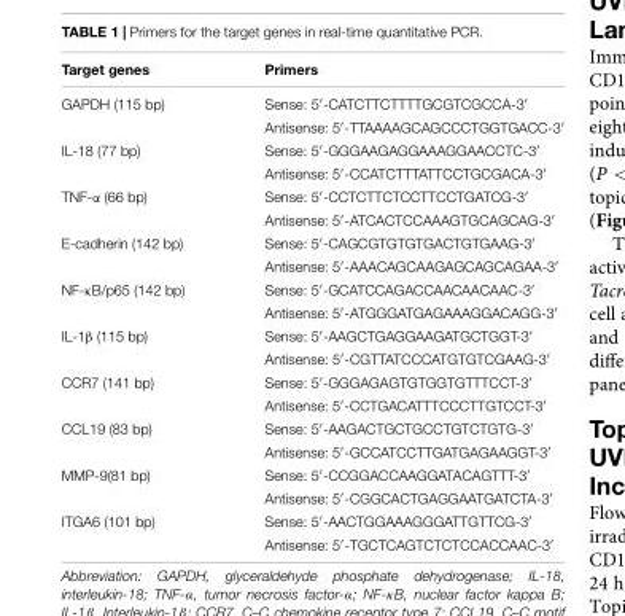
<table><thead><tr><td>Target genes</td><td>Primers</td></tr></thead><tbody><tr><td rowspan="2">GAPDH (115 bp)</td><td>Sense: 5′-CATCTTCTTTTGCGTCGCCA-3′</td></tr><tr><td>Antisense: 5′-TTAAAAGCAGCCCTGGTGACC-3′</td></tr><tr><td rowspan="2">IL-18 (77 bp)</td><td>Sense: 5′-GGGAAGAGGAAAGGAACCTC-3′</td></tr><tr><td>Antisense: 5′-CCATCTTTATTCCTGCGACA-3′</td></tr><tr><td rowspan="2">TNF-α (66 bp)</td><td>Sense: 5′-CCTCTTCTCCTTCCTGATCG-3′</td></tr><tr><td>Antisense: 5′-ATCACTCCAAAGTGCAGCAG-3′</td></tr><tr><td rowspan="2">E-cadherin (142 bp)</td><td>Sense: 5′-CAGCGTGTGTGACTGTGAAG-3′</td></tr><tr><td>Antisense: 5′-AAACAGCAAGAGCAGCAGAA-3′</td></tr><tr><td rowspan="2">NF-κB/p65 (142 bp)</td><td>Sense: 5′-GCATCCAGACCAACAACAAC-3′</td></tr><tr><td>Antisense: 5′-ATGGGATGAGAAAGGACAGG-3′</td></tr><tr><td rowspan="2">IL-1β (115 bp)</td><td>Sense: 5′-AAGCTGAGGAAGATGCTGGT-3′</td></tr><tr><td>Antisense: 5′-CGTTATCCCATGTGTCGAAG-3′</td></tr><tr><td rowspan="2">CCR7 (141 bp)</td><td>Sense: 5′-GGGAGAGTGTGGTGTTTCCT-3′</td></tr><tr><td>Antisense: 5′-CCTGACATTTCCCTTGTCCT-3′</td></tr><tr><td rowspan="2">CCL19 (83 bp)</td><td>Sense: 5′-AAGACTGCTGCCTGTCTGTG-3′</td></tr><tr><td>Antisense: 5′-GCCATCCTTGATGAGAAGGT-3′</td></tr><tr><td rowspan="2">MMP-9(81 bp)</td><td>Sense: 5′-CCGGACCAAGGATACAGTTT-3′</td></tr><tr><td>Antisense: 5′-CGGCACTGAGGAATGATCTA-3′</td></tr><tr><td rowspan="2">ITGA6 (101 bp)</td><td>Sense: 5′-AACTGGAAAGGGATTGTTCG-3′</td></tr><tr><td>Antisense: 5′-TGCTCAGTCTCTCCACCAAC-3′</td></tr></tbody></table>